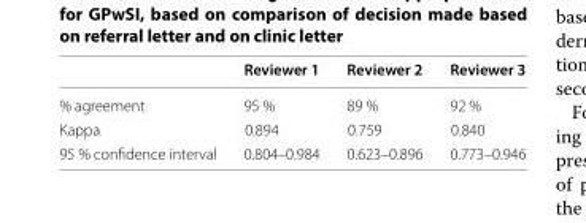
<table><thead><tr><td></td><td>Reviewer 1</td><td>Reviewer 2</td><td>Reviewer 3</td></tr></thead><tbody><tr><td>% agreement</td><td>95 %</td><td>89 %</td><td>92 %</td></tr><tr><td>Kappa</td><td>0.894</td><td>0.759</td><td>0.840</td></tr><tr><td>95 % confidence interval</td><td>0.804–0.984</td><td>0.623–0.896</td><td>0.773–0.946</td></tr></tbody></table>